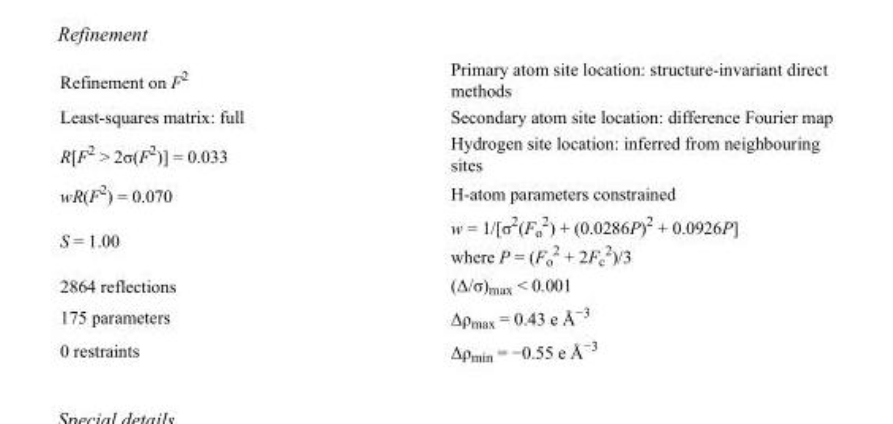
<table><tbody><tr><td>Refinement on F<sup>2</sup></td><td>Primary atom site location: structure-invariant direct methods</td></tr><tr><td>Least-squares matrix: full</td><td>Secondary atom site location: difference Fourier map</td></tr><tr><td>R[F<sup>2</sup> &gt; 2σ(F<sup>2</sup>)] = 0.033</td><td>Hydrogen site location: inferred from neighbouring sites</td></tr><tr><td>wR(F<sup>2</sup>) = 0.070</td><td>H-atom parameters constrained</td></tr><tr><td>S = 1.00</td><td>w = 1/[σ<sup>2</sup>(F<sub>o</sub> <sup>2</sup>) + (0.0286P)<sup>2</sup> + 0.0926P] where P = (F<sub>o</sub> <sup>2</sup> + 2F<sub>c</sub> <sup>2</sup>)/3</td></tr><tr><td>2864 reflections</td><td>(Δ/σ)<sub>max</sub> &lt; 0.001</td></tr><tr><td>175 parameters</td><td>Δρ<sub>max</sub> = 0.43 e Å<sup>−3</sup></td></tr><tr><td>0 restraints</td><td>Δρ<sub>min</sub> = −0.55 e Å<sup>−3</sup></td></tr></tbody></table>